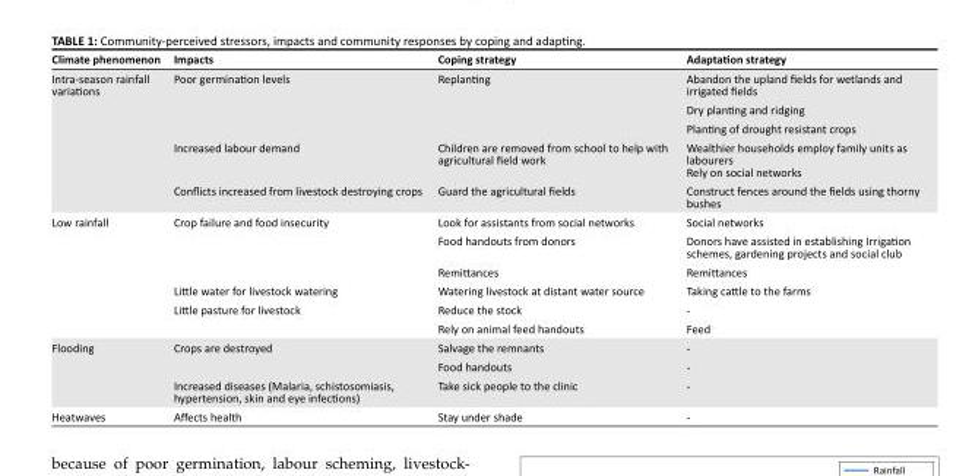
<table><thead><tr><td>Climate phenomenon</td><td>Impacts</td><td>Coping strategy</td><td>Adaptation strategy</td></tr></thead><tbody><tr><td rowspan="5">Intra-season rainfall variations</td><td rowspan="3">Poor germination levels</td><td rowspan="3">Replanting</td><td>Abandon the upland fields for wetlands and irrigated fields</td></tr><tr><td>Dry planting and ridging</td></tr><tr><td>Planting of drought resistant crops</td></tr><tr><td>Increased labour demand</td><td>Children are removed from school to help with agricultural field work</td><td>Wealthier households employ family units as labourers Rely on social networks</td></tr><tr><td>Conflicts increased from livestock destroying crops</td><td>Guard the agricultural fields</td><td>Construct fences around the fields using thorny bushes</td></tr><tr><td rowspan="6">Low rainfall</td><td rowspan="3">Crop failure and food insecurity</td><td>Look for assistants from social networks</td><td>Social networks</td></tr><tr><td>Food handouts from donors</td><td>Donors have assisted in establishing Irrigation schemes, gardening projects and social club</td></tr><tr><td>Remittances</td><td>Remittances</td></tr><tr><td>Little water for livestock watering</td><td>Watering livestock at distant water source</td><td>Taking cattle to the farms</td></tr><tr><td rowspan="2">Little pasture for livestock</td><td>Reduce the stock</td><td>-</td></tr><tr><td>Rely on animal feed handouts</td><td>Feed</td></tr><tr><td rowspan="3">Flooding</td><td rowspan="2">Crops are destroyed</td><td>Salvage the remnants</td><td>-</td></tr><tr><td>Food handouts</td><td>-</td></tr><tr><td>Increased diseases (Malaria, schistosomiasis, hypertension, skin and eye infections)</td><td>Take sick people to the clinic</td><td>-</td></tr><tr><td>Heatwaves</td><td>Affects health</td><td>Stay under shade</td><td>-</td></tr></tbody></table>